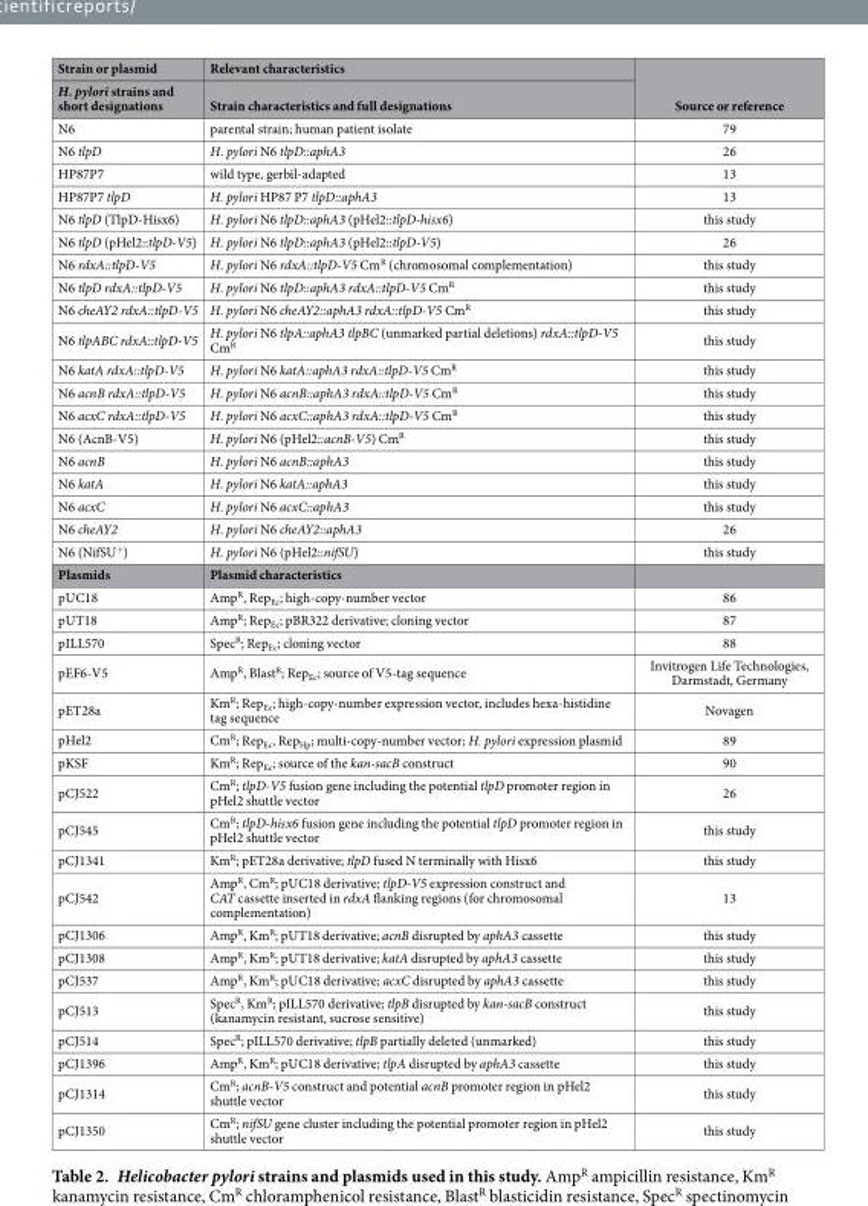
<table><thead><tr><td rowspan="2">Strain or plasmid H. pylori strains and short designations</td><td rowspan="2">Relevant characteristics Strain characteristics and full designations</td><td rowspan="2">Source or reference</td></tr><tr></tr></thead><tbody><tr><td>N6</td><td>parental strain; human patient isolate</td><td>79</td></tr><tr><td>N6 tlpD</td><td>H. pylori N6 tlpD::aphA3</td><td>26</td></tr><tr><td>HP87P7</td><td>wild type, gerbil-adapted</td><td>13</td></tr><tr><td>HP87P7 tlpD</td><td>H. pylori HP87 P7 tlpD::aphA3</td><td>13</td></tr><tr><td>N6 tlpD (TlpD-Hisx6)</td><td>H. pylori N6 tlpD::aphA3 (pHel2::tlpD-hisx6)</td><td>this study</td></tr><tr><td>N6 tlpD (pHel2::tlpD-V5)</td><td>H. pylori N6 tlpD::aphA3 (pHel2::tlpD-V5)</td><td>26</td></tr><tr><td>N6 rdxA::tlpD-V5</td><td>H. pylori N6 rdxA::tlpD-V5 Cm<sup>R</sup> (chromosomal complementation)</td><td>this study</td></tr><tr><td>N6 tlpD rdxA::tlpD-V5</td><td>H. pylori N6 tlpD::aphA3 rdxA::tlpD-V5 Cm<sup>R</sup></td><td>this study</td></tr><tr><td>N6 cheAY2 rdxA::tlpD-V5</td><td>H. pylori N6 cheAY2::aphA3 rdxA::tlpD-V5 Cm<sup>R</sup></td><td>this study</td></tr><tr><td>N6 tlpABC rdxA::tlpD-V5</td><td>H. pylori N6 tlpA::aphA3 tlpBC (unmarked partial deletions) rdxA::tlpD-V5 Cm<sup>R</sup></td><td>this study</td></tr><tr><td>N6 katA rdxA::tlpD-V5</td><td>H. pylori N6 katA::aphA3 rdxA::tlpD-V5 Cm<sup>R</sup></td><td>this study</td></tr><tr><td>N6 acnB rdxA::tlpD-V5</td><td>H. pylori N6 acnB::aphA3 rdxA::tlpD-V5 Cm<sup>R</sup></td><td>this study</td></tr><tr><td>N6 acxC rdxA::tlpD-V5</td><td>H. pylori N6 acxC::aphA3 rdxA::tlpD-V5 Cm<sup>R</sup></td><td>this study</td></tr><tr><td>N6 (AcnB-V5)</td><td>H. pylori N6 (pHel2::acnB-V5) Cm<sup>R</sup></td><td>this study</td></tr><tr><td>N6 acnB</td><td>H. pylori N6 acnB::aphA3</td><td>this study</td></tr><tr><td>N6 katA</td><td>H. pylori N6 katA::aphA3</td><td>this study</td></tr><tr><td>N6 acxC</td><td>H. pylori N6 acxC::aphA3</td><td>this study</td></tr><tr><td>N6 cheAY2</td><td>H. pylori N6 cheAY2::aphA3</td><td>26</td></tr><tr><td>N6 (NifSU<sup>+</sup>)</td><td>H. pylori N6 (pHel2::nifSU)</td><td>this study</td></tr><tr><td>Plasmids</td><td>Plasmid characteristics</td><td></td></tr><tr><td>pUC18</td><td>Amp<sup>R</sup>, Rep<sub>Ec</sub>; high-copy-number vector</td><td>86</td></tr><tr><td>pUT18</td><td>Amp<sup>R</sup>; Rep<sub>Ec</sub>; pBR322 derivative; cloning vector</td><td>87</td></tr><tr><td>pILL570</td><td>Spec<sup>R</sup>; Rep<sub>Ec</sub>; cloning vector</td><td>88</td></tr><tr><td>pEF6-V5</td><td>Amp<sup>R</sup>, Blast<sup>R</sup>; Rep<sub>Ec</sub>; source of V5-tag sequence</td><td>Invitrogen Life Technologies, Darmstadt, Germany</td></tr><tr><td>pET28a</td><td>Km<sup>R</sup>; Rep<sub>Ec</sub>; high-copy-number expression vector, includes hexa-histidine tag sequence</td><td>Novagen</td></tr><tr><td>pHel2</td><td>Cm<sup>R</sup>; Rep<sub>Ec</sub>, Rep<sub>Hp</sub>; multi-copy-number vector; H. pylori expression plasmid</td><td>89</td></tr><tr><td>pKSF</td><td>Km<sup>R</sup>; Rep<sub>Ec</sub>; source of the kan-sacB construct</td><td>90</td></tr><tr><td>pCJ522</td><td>Cm<sup>R</sup>; tlpD-V5 fusion gene including the potential tlpD promoter region in pHel2 shuttle vector</td><td>26</td></tr><tr><td>pCJ545</td><td>Cm<sup>R</sup>; tlpD-hisx6 fusion gene including the potential tlpD promoter region in pHel2 shuttle vector</td><td>this study</td></tr><tr><td>pCJ1341</td><td>Km<sup>R</sup>; pET28a derivative; tlpD fused N terminally with Hisx6</td><td>this study</td></tr><tr><td>pCJ542</td><td>Amp<sup>R</sup>, Cm<sup>R</sup>; pUC18 derivative; tlpD-V5 expression construct and CAT cassette inserted in rdxA flanking regions (for chromosomal complementation)</td><td>13</td></tr><tr><td>pCJ1306</td><td>Amp<sup>R</sup>, Km<sup>R</sup>; pUT18 derivative; acnB disrupted by aphA3 cassette</td><td>this study</td></tr><tr><td>pCJ1308</td><td>Amp<sup>R</sup>, Km<sup>R</sup>; pUT18 derivative; katA disrupted by aphA3 cassette</td><td>this study</td></tr><tr><td>pCJ537</td><td>Amp<sup>R</sup>, Km<sup>R</sup>; pUC18 derivative; acxC disrupted by aphA3 cassette</td><td>this study</td></tr><tr><td>pCJ513</td><td>Spec<sup>R</sup>, Km<sup>R</sup>; pILL570 derivative; tlpB disrupted by kan-sacB construct (kanamycin resistant, sucrose sensitive)</td><td>this study</td></tr><tr><td>pCJ514</td><td>Spec<sup>R</sup>; pILL570 derivative; tlpB partially deleted (unmarked)</td><td>this study</td></tr><tr><td>pCJ1396</td><td>Amp<sup>R</sup>, Km<sup>R</sup>; pUC18 derivative; tlpA disrupted by aphA3 cassette</td><td>this study</td></tr><tr><td>pCJ1314</td><td>Cm<sup>R</sup>; acnB-V5 construct and potential acnB promoter region in pHel2 shuttle vector</td><td>this study</td></tr><tr><td>pCJ1350</td><td>Cm<sup>R</sup>; nifSU gene cluster including the potential promoter region in pHel2 shuttle vector</td><td>this study</td></tr></tbody></table>